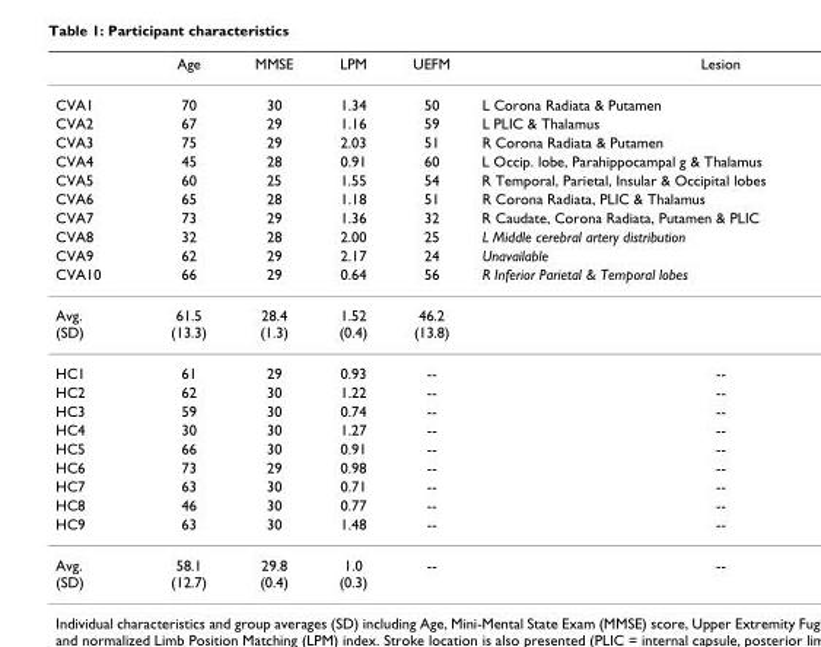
<table><thead><tr><td></td><td>Age</td><td>MMSE</td><td>LPM</td><td>UEFM</td><td>Lesion</td></tr></thead><tbody><tr><td>CVA1</td><td>70</td><td>30</td><td>1.34</td><td>50</td><td>L Corona Radiata &amp; Putamen</td></tr><tr><td>CVA2</td><td>67</td><td>29</td><td>1.16</td><td>59</td><td>L PLIC &amp; Thalamus</td></tr><tr><td>CVA3</td><td>75</td><td>29</td><td>2.03</td><td>51</td><td>R Corona Radiata &amp; Putamen</td></tr><tr><td>CVA4</td><td>45</td><td>28</td><td>0.91</td><td>60</td><td>L Occip. lobe, Parahippocampal g &amp; Thalamus</td></tr><tr><td>CVA5</td><td>60</td><td>25</td><td>1.55</td><td>54</td><td>R Temporal, Parietal, Insular &amp; Occipital lobes</td></tr><tr><td>CVA6</td><td>65</td><td>28</td><td>1.18</td><td>51</td><td>R Corona Radiata, PLIC &amp; Thalamus</td></tr><tr><td>CVA7</td><td>73</td><td>29</td><td>1.36</td><td>32</td><td>R Caudate, Corona Radiata, Putamen &amp; PLIC</td></tr><tr><td>CVA8</td><td>32</td><td>28</td><td>2.00</td><td>25</td><td>L Middle cerebral artery distribution</td></tr><tr><td>CVA9</td><td>62</td><td>29</td><td>2.17</td><td>24</td><td>Unavailable</td></tr><tr><td>CVA10</td><td>66</td><td>29</td><td>0.64</td><td>56</td><td>R Inferior Parietal &amp; Temporal lobes</td></tr><tr><td>Avg. (SD)</td><td>61.5 (13.3)</td><td>28.4 (1.3)</td><td>1.52 (0.4)</td><td>46.2 (13.8)</td><td></td></tr><tr><td>HC1</td><td>61</td><td>29</td><td>0.93</td><td>--</td><td>--</td></tr><tr><td>HC2</td><td>62</td><td>30</td><td>1.22</td><td>--</td><td>--</td></tr><tr><td>HC3</td><td>59</td><td>30</td><td>0.74</td><td>--</td><td>--</td></tr><tr><td>HC4</td><td>30</td><td>30</td><td>1.27</td><td>--</td><td>--</td></tr><tr><td>HC5</td><td>66</td><td>30</td><td>0.91</td><td>--</td><td>--</td></tr><tr><td>HC6</td><td>73</td><td>29</td><td>0.98</td><td>--</td><td>--</td></tr><tr><td>HC7</td><td>63</td><td>30</td><td>0.71</td><td>--</td><td>--</td></tr><tr><td>HC8</td><td>46</td><td>30</td><td>0.77</td><td>--</td><td>--</td></tr><tr><td>HC9</td><td>63</td><td>30</td><td>1.48</td><td>--</td><td>--</td></tr><tr><td>Avg. (SD)</td><td>58.1 (12.7)</td><td>29.8 (0.4)</td><td>1.0 (0.3)</td><td>--</td><td>--</td></tr></tbody></table>